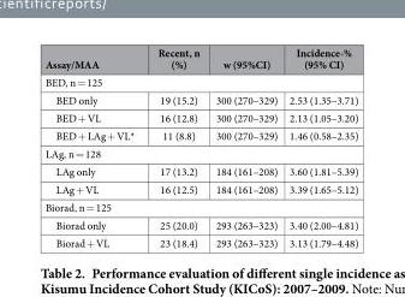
<table><thead><tr><td>Assay/MAA</td><td>Recent, n (%)</td><td>w (95%CI)</td><td>Incidence-% (95% CI)</td></tr></thead><tbody><tr><td colspan="4">BED, n = 125</td></tr><tr><td>BED only</td><td>19 (15.2)</td><td>300 (270–329)</td><td>2.53 (1.35–3.71)</td></tr><tr><td>BED + VL</td><td>16 (12.8)</td><td>300 (270–329)</td><td>2.13 (1.05–3.20)</td></tr><tr><td>BED + LAg + VL*</td><td>11 (8.8)</td><td>300 (270–329)</td><td>1.46 (0.58–2.35)</td></tr><tr><td colspan="4">LAg, n = 128</td></tr><tr><td>LAg only</td><td>17 (13.2)</td><td>184 (161–208)</td><td>3.60 (1.81–5.39)</td></tr><tr><td>LAg + VL</td><td>16 (12.5)</td><td>184 (161–208)</td><td>3.39 (1.65–5.12)</td></tr><tr><td colspan="4">Biorad, n = 125</td></tr><tr><td>Biorad only</td><td>25 (20.0)</td><td>293 (263–323)</td><td>3.40 (2.00–4.81)</td></tr><tr><td>Biorad + VL</td><td>23 (18.4)</td><td>293 (263–323)</td><td>3.13 (1.79–4.48)</td></tr></tbody></table>